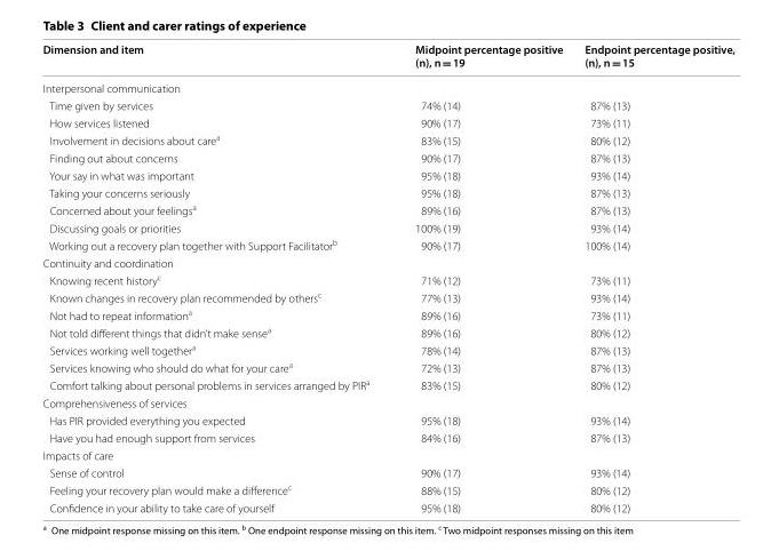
<table><thead><tr><td>Dimension and item</td><td>Midpoint percentage positive (n), n = 19</td><td>Endpoint percentage positive, (n), n = 15</td></tr></thead><tbody><tr><td colspan="3">Interpersonal communication</td></tr><tr><td>Time given by services</td><td>74% (14)</td><td>87% (13)</td></tr><tr><td>How services listened</td><td>90% (17)</td><td>73% (11)</td></tr><tr><td>Involvement in decisions about care<sup>a</sup></td><td>83% (15)</td><td>80% (12)</td></tr><tr><td>Finding out about concerns</td><td>90% (17)</td><td>87% (13)</td></tr><tr><td>Your say in what was important</td><td>95% (18)</td><td>93% (14)</td></tr><tr><td>Taking your concerns seriously</td><td>95% (18)</td><td>87% (13)</td></tr><tr><td>Concerned about your feelings<sup>a</sup></td><td>89% (16)</td><td>87% (13)</td></tr><tr><td>Discussing goals or priorities</td><td>100% (19)</td><td>93% (14)</td></tr><tr><td>Working out a recovery plan together with Support Facilitator<sup>b</sup></td><td>90% (17)</td><td>100% (14)</td></tr><tr><td colspan="3">Continuity and coordination</td></tr><tr><td>Knowing recent history<sup>c</sup></td><td>71% (12)</td><td>73% (11)</td></tr><tr><td>Known changes in recovery plan recommended by others<sup>c</sup></td><td>77% (13)</td><td>93% (14)</td></tr><tr><td>Not had to repeat information<sup>a</sup></td><td>89% (16)</td><td>73% (11)</td></tr><tr><td>Not told different things that didn’t make sense<sup>a</sup></td><td>89% (16)</td><td>80% (12)</td></tr><tr><td>Services working well together<sup>a</sup></td><td>78% (14)</td><td>87% (13)</td></tr><tr><td>Services knowing who should do what for your care<sup>a</sup></td><td>72% (13)</td><td>87% (13)</td></tr><tr><td>Comfort talking about personal problems in services arranged by PIR<sup>a</sup></td><td>83% (15)</td><td>80% (12)</td></tr><tr><td colspan="3">Comprehensiveness of services</td></tr><tr><td>Has PIR provided everything you expected</td><td>95% (18)</td><td>93% (14)</td></tr><tr><td>Have you had enough support from services</td><td>84% (16)</td><td>87% (13)</td></tr><tr><td colspan="3">Impacts of care</td></tr><tr><td>Sense of control</td><td>90% (17)</td><td>93% (14)</td></tr><tr><td>Feeling your recovery plan would make a difference<sup>c</sup></td><td>88% (15)</td><td>80% (12)</td></tr><tr><td>Confidence in your ability to take care of yourself</td><td>95% (18)</td><td>80% (12)</td></tr></tbody></table>